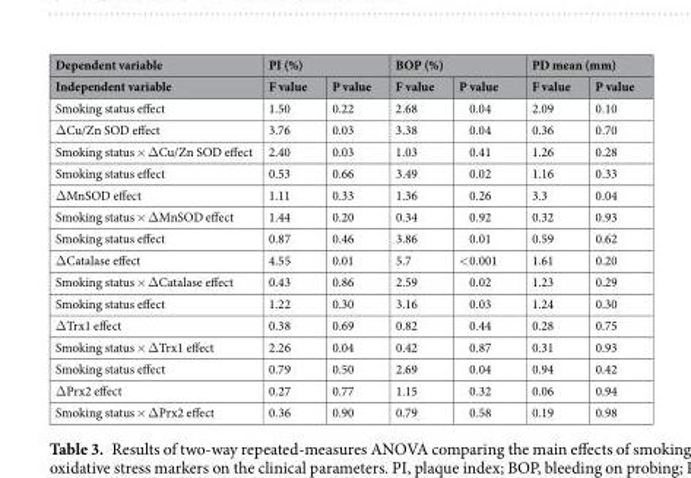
<table><thead><tr><td rowspan="2">Dependent variable Independent variable</td><td colspan="2">PI (%)</td><td colspan="2">BOP (%)</td><td colspan="2">PD mean (mm)</td></tr><tr><td>F value</td><td>P value</td><td>F value</td><td>P value</td><td>F value</td><td>P value</td></tr></thead><tbody><tr><td>Smoking status effect</td><td>1.50</td><td>0.22</td><td>2.68</td><td>0.04</td><td>2.09</td><td>0.10</td></tr><tr><td>ΔCu/Zn SOD effect</td><td>3.76</td><td>0.03</td><td>3.38</td><td>0.04</td><td>0.36</td><td>0.70</td></tr><tr><td>Smoking status × ΔCu/Zn SOD effect</td><td>2.40</td><td>0.03</td><td>1.03</td><td>0.41</td><td>1.26</td><td>0.28</td></tr><tr><td>Smoking status effect</td><td>0.53</td><td>0.66</td><td>3.49</td><td>0.02</td><td>1.16</td><td>0.33</td></tr><tr><td>ΔMnSOD effect</td><td>1.11</td><td>0.33</td><td>1.36</td><td>0.26</td><td>3.3</td><td>0.04</td></tr><tr><td>Smoking status × ΔMnSOD effect</td><td>1.44</td><td>0.20</td><td>0.34</td><td>0.92</td><td>0.32</td><td>0.93</td></tr><tr><td>Smoking status effect</td><td>0.87</td><td>0.46</td><td>3.86</td><td>0.01</td><td>0.59</td><td>0.62</td></tr><tr><td>ΔCatalase effect</td><td>4.55</td><td>0.01</td><td>5.7</td><td>&lt;0.001</td><td>1.61</td><td>0.20</td></tr><tr><td>Smoking status × ΔCatalase effect</td><td>0.43</td><td>0.86</td><td>2.59</td><td>0.02</td><td>1.23</td><td>0.29</td></tr><tr><td>Smoking status effect</td><td>1.22</td><td>0.30</td><td>3.16</td><td>0.03</td><td>1.24</td><td>0.30</td></tr><tr><td>ΔTrx1 effect</td><td>0.38</td><td>0.69</td><td>0.82</td><td>0.44</td><td>0.28</td><td>0.75</td></tr><tr><td>Smoking status × ΔTrx1 effect</td><td>2.26</td><td>0.04</td><td>0.42</td><td>0.87</td><td>0.31</td><td>0.93</td></tr><tr><td>Smoking status effect</td><td>0.79</td><td>0.50</td><td>2.69</td><td>0.04</td><td>0.94</td><td>0.42</td></tr><tr><td>ΔPrx2 effect</td><td>0.27</td><td>0.77</td><td>1.15</td><td>0.32</td><td>0.06</td><td>0.94</td></tr><tr><td>Smoking status × ΔPrx2 effect</td><td>0.36</td><td>0.90</td><td>0.79</td><td>0.58</td><td>0.19</td><td>0.98</td></tr></tbody></table>